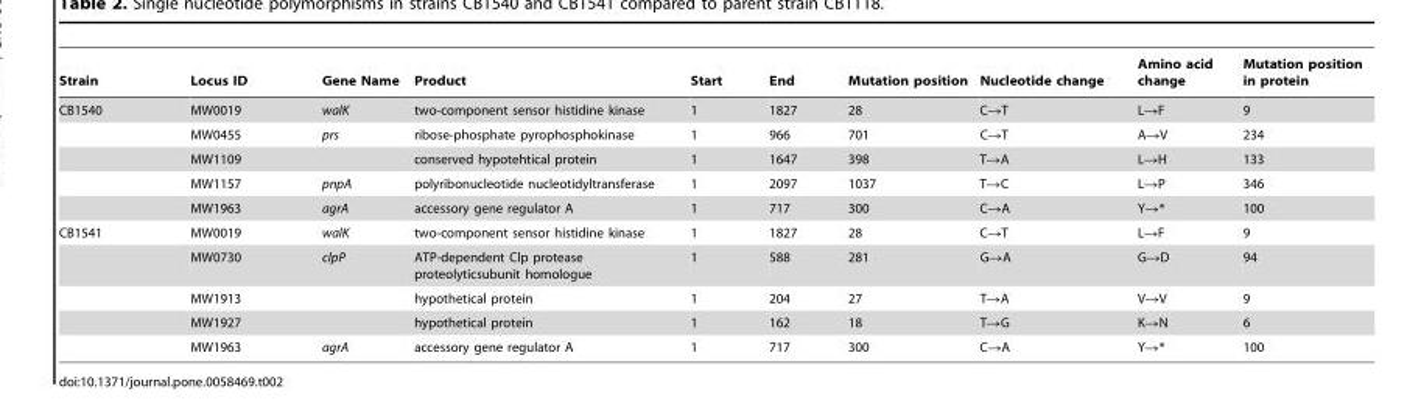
<table><thead><tr><td>Strain</td><td>Locus ID</td><td>Gene Name</td><td>Product</td><td>Start</td><td>End</td><td>Mutation position</td><td>Nucleotide change</td><td>Amino acid change</td><td>Mutation position in protein</td></tr></thead><tbody><tr><td rowspan="5">CB1540</td><td>MW0019</td><td>walK</td><td>two-component sensor histidine kinase</td><td>1</td><td>1827</td><td>28</td><td>C→T</td><td>L→F</td><td>9</td></tr><tr><td>MW0455</td><td>prs</td><td>ribose-phosphate pyrophosphokinase</td><td>1</td><td>966</td><td>701</td><td>C→T</td><td>A→V</td><td>234</td></tr><tr><td>MW1109</td><td></td><td>conserved hypotehtical protein</td><td>1</td><td>1647</td><td>398</td><td>T→A</td><td>L→H</td><td>133</td></tr><tr><td>MW1157</td><td>pnpA</td><td>polyribonucleotide nucleotidyltransferase</td><td>1</td><td>2097</td><td>1037</td><td>T→C</td><td>L→P</td><td>346</td></tr><tr><td>MW1963</td><td>agrA</td><td>accessory gene regulator A</td><td>1</td><td>717</td><td>300</td><td>C→A</td><td>Y→*</td><td>100</td></tr><tr><td rowspan="5">CB1541</td><td>MW0019</td><td>walK</td><td>two-component sensor histidine kinase</td><td>1</td><td>1827</td><td>28</td><td>C→T</td><td>L→F</td><td>9</td></tr><tr><td>MW0730</td><td>clpP</td><td>ATP-dependent Clp protease proteolyticsubunit homologue</td><td>1</td><td>588</td><td>281</td><td>G→A</td><td>G→D</td><td>94</td></tr><tr><td>MW1913</td><td></td><td>hypothetical protein</td><td>1</td><td>204</td><td>27</td><td>T→A</td><td>V→V</td><td>9</td></tr><tr><td>MW1927</td><td></td><td>hypothetical protein</td><td>1</td><td>162</td><td>18</td><td>T→G</td><td>K→N</td><td>6</td></tr><tr><td>MW1963</td><td>agrA</td><td>accessory gene regulator A</td><td>1</td><td>717</td><td>300</td><td>C→A</td><td>Y→*</td><td>100</td></tr></tbody></table>